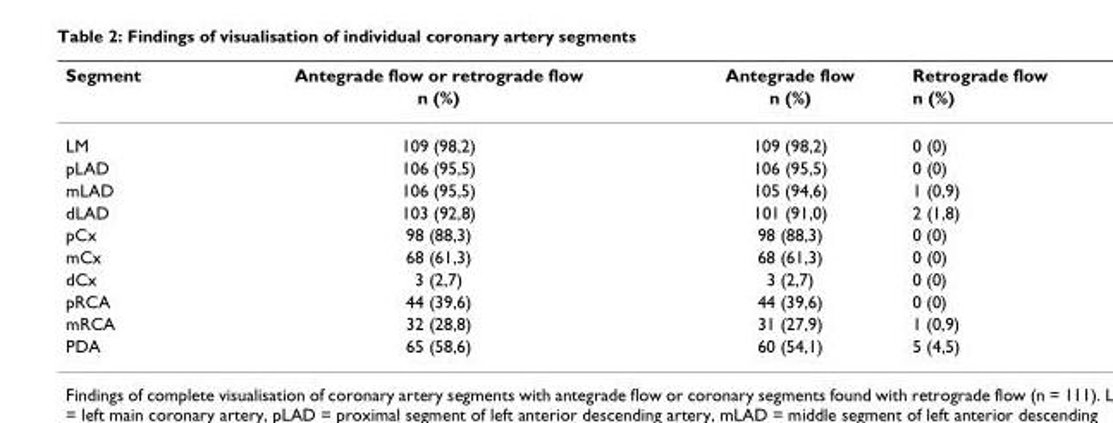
<table><thead><tr><td rowspan="2">Segment</td><td rowspan="2">Antegrade flow or retrograde flow n (%)</td><td rowspan="2">Antegrade flow n (%)</td><td rowspan="2">Retrograde flow n (%)</td></tr><tr></tr></thead><tbody><tr><td>LM</td><td>109 (98,2)</td><td>109 (98,2)</td><td>0 (0)</td></tr><tr><td>pLAD</td><td>106 (95,5)</td><td>106 (95,5)</td><td>0 (0)</td></tr><tr><td>mLAD</td><td>106 (95,5)</td><td>105 (94,6)</td><td>1 (0,9)</td></tr><tr><td>dLAD</td><td>103 (92,8)</td><td>101 (91,0)</td><td>2 (1,8)</td></tr><tr><td>pCx</td><td>98 (88,3)</td><td>98 (88,3)</td><td>0 (0)</td></tr><tr><td>mCx</td><td>68 (61,3)</td><td>68 (61,3)</td><td>0 (0)</td></tr><tr><td>dCx</td><td>3 (2,7)</td><td>3 (2,7)</td><td>0 (0)</td></tr><tr><td>pRCA</td><td>44 (39,6)</td><td>44 (39,6)</td><td>0 (0)</td></tr><tr><td>mRCA</td><td>32 (28,8)</td><td>31 (27,9)</td><td>1 (0,9)</td></tr><tr><td>PDA</td><td>65 (58,6)</td><td>60 (54,1)</td><td>5 (4,5)</td></tr></tbody></table>